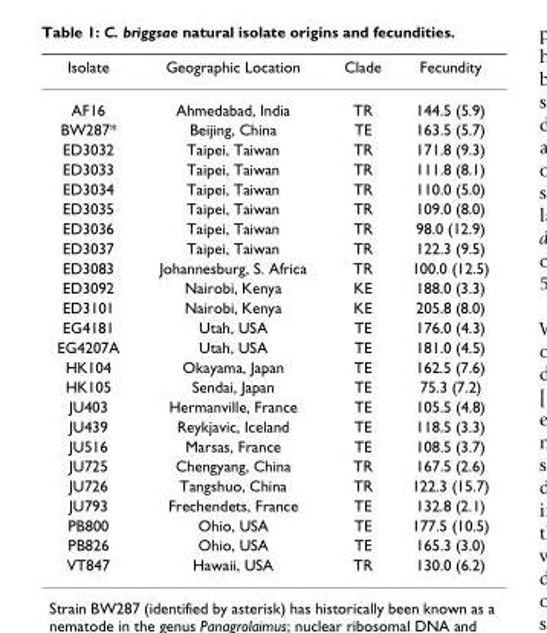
<table><thead><tr><td>Isolate</td><td>Geographic Location</td><td>Clade</td><td>Fecundity</td></tr></thead><tbody><tr><td>AF16</td><td>Ahmedabad, India</td><td>TR</td><td>144.5 (5.9)</td></tr><tr><td>BW287*</td><td>Beijing, China</td><td>TE</td><td>163.5 (5.7)</td></tr><tr><td>ED3032</td><td>Taipei, Taiwan</td><td>TR</td><td>171.8 (9.3)</td></tr><tr><td>ED3033</td><td>Taipei, Taiwan</td><td>TR</td><td>111.8 (8.1)</td></tr><tr><td>ED3034</td><td>Taipei, Taiwan</td><td>TR</td><td>110.0 (5.0)</td></tr><tr><td>ED3035</td><td>Taipei, Taiwan</td><td>TR</td><td>109.0 (8.0)</td></tr><tr><td>ED3036</td><td>Taipei, Taiwan</td><td>TR</td><td>98.0 (12.9)</td></tr><tr><td>ED3037</td><td>Taipei, Taiwan</td><td>TR</td><td>122.3 (9.5)</td></tr><tr><td>ED3083</td><td>Johannesburg, S. Africa</td><td>TR</td><td>100.0 (12.5)</td></tr><tr><td>ED3092</td><td>Nairobi, Kenya</td><td>KE</td><td>188.0 (3.3)</td></tr><tr><td>ED3101</td><td>Nairobi, Kenya</td><td>KE</td><td>205.8 (8.0)</td></tr><tr><td>EG4181</td><td>Utah, USA</td><td>TE</td><td>176.0 (4.3)</td></tr><tr><td>EG4207A</td><td>Utah, USA</td><td>TE</td><td>181.0 (4.5)</td></tr><tr><td>HK104</td><td>Okayama, Japan</td><td>TE</td><td>162.5 (7.6)</td></tr><tr><td>HK105</td><td>Sendai, Japan</td><td>TE</td><td>75.3 (7.2)</td></tr><tr><td>JU403</td><td>Hermanville, France</td><td>TE</td><td>105.5 (4.8)</td></tr><tr><td>JU439</td><td>Reykjavic, Iceland</td><td>TE</td><td>118.5 (3.3)</td></tr><tr><td>JU516</td><td>Marsas, France</td><td>TE</td><td>108.5 (3.7)</td></tr><tr><td>JU725</td><td>Chengyang, China</td><td>TR</td><td>167.5 (2.6)</td></tr><tr><td>JU726</td><td>Tangshuo, China</td><td>TR</td><td>122.3 (15.7)</td></tr><tr><td>JU793</td><td>Frechendets, France</td><td>TE</td><td>132.8 (2.1)</td></tr><tr><td>PB800</td><td>Ohio, USA</td><td>TE</td><td>177.5 (10.5)</td></tr><tr><td>PB826</td><td>Ohio, USA</td><td>TE</td><td>165.3 (3.0)</td></tr><tr><td>VT847</td><td>Hawaii, USA</td><td>TR</td><td>130.0 (6.2)</td></tr></tbody></table>